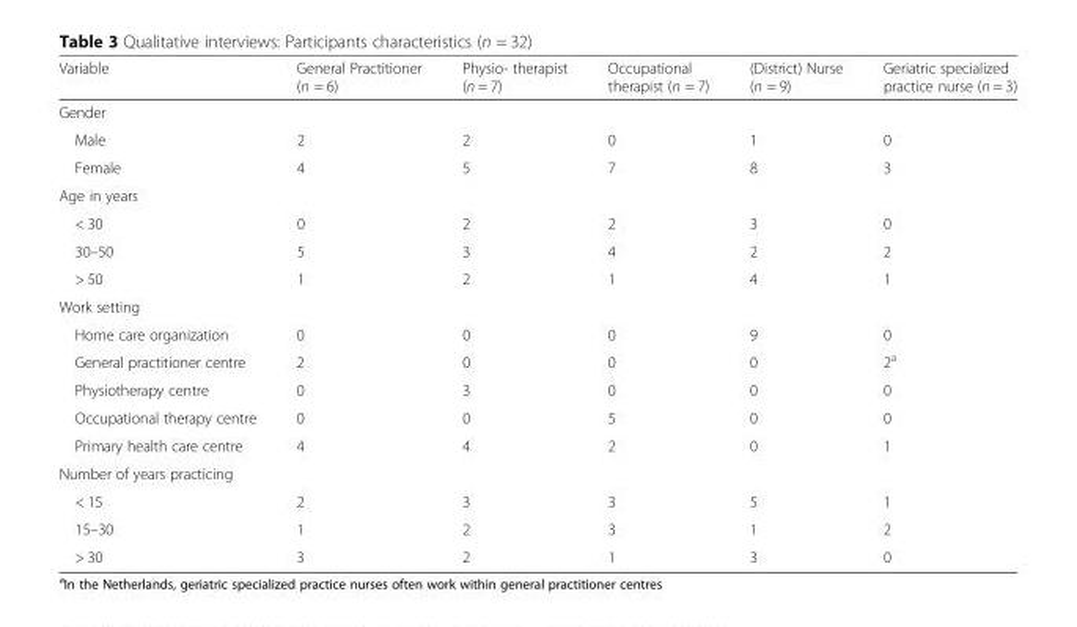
<table><thead><tr><td>Variable</td><td>General Practitioner (n = 6)</td><td>Physio- therapist (n = 7)</td><td>Occupational therapist (n = 7)</td><td>(District) Nurse (n = 9)</td><td>Geriatric specialized practice nurse (n = 3)</td></tr></thead><tbody><tr><td colspan="6">Gender</td></tr><tr><td>Male</td><td>2</td><td>2</td><td>0</td><td>1</td><td>0</td></tr><tr><td>Female</td><td>4</td><td>5</td><td>7</td><td>8</td><td>3</td></tr><tr><td colspan="6">Age in years</td></tr><tr><td>&lt; 30</td><td>0</td><td>2</td><td>2</td><td>3</td><td>0</td></tr><tr><td>30–50</td><td>5</td><td>3</td><td>4</td><td>2</td><td>2</td></tr><tr><td>&gt; 50</td><td>1</td><td>2</td><td>1</td><td>4</td><td>1</td></tr><tr><td colspan="6">Work setting</td></tr><tr><td>Home care organization</td><td>0</td><td>0</td><td>0</td><td>9</td><td>0</td></tr><tr><td>General practitioner centre</td><td>2</td><td>0</td><td>0</td><td>0</td><td>2<sup>a</sup></td></tr><tr><td>Physiotherapy centre</td><td>0</td><td>3</td><td>0</td><td>0</td><td>0</td></tr><tr><td>Occupational therapy centre</td><td>0</td><td>0</td><td>5</td><td>0</td><td>0</td></tr><tr><td>Primary health care centre</td><td>4</td><td>4</td><td>2</td><td>0</td><td>1</td></tr><tr><td colspan="6">Number of years practicing</td></tr><tr><td>&lt; 15</td><td>2</td><td>3</td><td>3</td><td>5</td><td>1</td></tr><tr><td>15–30</td><td>1</td><td>2</td><td>3</td><td>1</td><td>2</td></tr><tr><td>&gt; 30</td><td>3</td><td>2</td><td>1</td><td>3</td><td>0</td></tr></tbody></table>